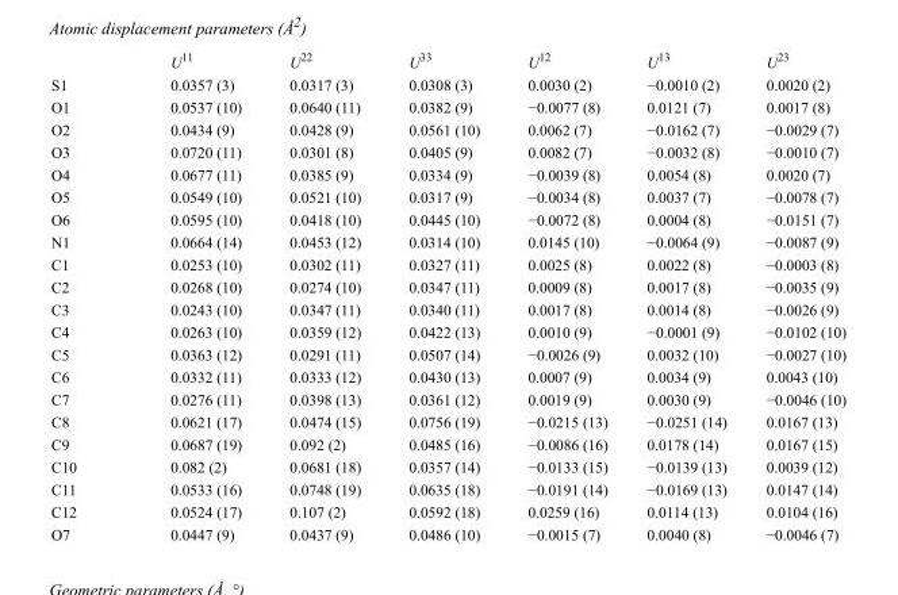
<table><thead><tr><td></td><td>U<sup>11</sup></td><td>U<sup>22</sup></td><td>U<sup>33</sup></td><td>U<sup>12</sup></td><td>U<sup>13</sup></td><td>U<sup>23</sup></td></tr></thead><tbody><tr><td>S1</td><td>0.0357 (3)</td><td>0.0317 (3)</td><td>0.0308 (3)</td><td>0.0030 (2)</td><td>−0.0010 (2)</td><td>0.0020 (2)</td></tr><tr><td>O1</td><td>0.0537 (10)</td><td>0.0640 (11)</td><td>0.0382 (9)</td><td>−0.0077 (8)</td><td>0.0121 (7)</td><td>0.0017 (8)</td></tr><tr><td>O2</td><td>0.0434 (9)</td><td>0.0428 (9)</td><td>0.0561 (10)</td><td>0.0062 (7)</td><td>−0.0162 (7)</td><td>−0.0029 (7)</td></tr><tr><td>O3</td><td>0.0720 (11)</td><td>0.0301 (8)</td><td>0.0405 (9)</td><td>0.0082 (7)</td><td>−0.0032 (8)</td><td>−0.0010 (7)</td></tr><tr><td>O4</td><td>0.0677 (11)</td><td>0.0385 (9)</td><td>0.0334 (9)</td><td>−0.0039 (8)</td><td>0.0054 (8)</td><td>0.0020 (7)</td></tr><tr><td>O5</td><td>0.0549 (10)</td><td>0.0521 (10)</td><td>0.0317 (9)</td><td>−0.0034 (8)</td><td>0.0037 (7)</td><td>−0.0078 (7)</td></tr><tr><td>O6</td><td>0.0595 (10)</td><td>0.0418 (10)</td><td>0.0445 (10)</td><td>−0.0072 (8)</td><td>0.0004 (8)</td><td>−0.0151 (7)</td></tr><tr><td>N1</td><td>0.0664 (14)</td><td>0.0453 (12)</td><td>0.0314 (10)</td><td>0.0145 (10)</td><td>−0.0064 (9)</td><td>−0.0087 (9)</td></tr><tr><td>C1</td><td>0.0253 (10)</td><td>0.0302 (11)</td><td>0.0327 (11)</td><td>0.0025 (8)</td><td>0.0022 (8)</td><td>−0.0003 (8)</td></tr><tr><td>C2</td><td>0.0268 (10)</td><td>0.0274 (10)</td><td>0.0347 (11)</td><td>0.0009 (8)</td><td>0.0017 (8)</td><td>−0.0035 (9)</td></tr><tr><td>C3</td><td>0.0243 (10)</td><td>0.0347 (11)</td><td>0.0340 (11)</td><td>0.0017 (8)</td><td>0.0014 (8)</td><td>−0.0026 (9)</td></tr><tr><td>C4</td><td>0.0263 (10)</td><td>0.0359 (12)</td><td>0.0422 (13)</td><td>0.0010 (9)</td><td>−0.0001 (9)</td><td>−0.0102 (10)</td></tr><tr><td>C5</td><td>0.0363 (12)</td><td>0.0291 (11)</td><td>0.0507 (14)</td><td>−0.0026 (9)</td><td>0.0032 (10)</td><td>−0.0027 (10)</td></tr><tr><td>C6</td><td>0.0332 (11)</td><td>0.0333 (12)</td><td>0.0430 (13)</td><td>0.0007 (9)</td><td>0.0034 (9)</td><td>0.0043 (10)</td></tr><tr><td>C7</td><td>0.0276 (11)</td><td>0.0398 (13)</td><td>0.0361 (12)</td><td>0.0019 (9)</td><td>0.0030 (9)</td><td>−0.0046 (10)</td></tr><tr><td>C8</td><td>0.0621 (17)</td><td>0.0474 (15)</td><td>0.0756 (19)</td><td>−0.0215 (13)</td><td>−0.0251 (14)</td><td>0.0167 (13)</td></tr><tr><td>C9</td><td>0.0687 (19)</td><td>0.092 (2)</td><td>0.0485 (16)</td><td>−0.0086 (16)</td><td>0.0178 (14)</td><td>0.0167 (15)</td></tr><tr><td>C10</td><td>0.082 (2)</td><td>0.0681 (18)</td><td>0.0357 (14)</td><td>−0.0133 (15)</td><td>−0.0139 (13)</td><td>0.0039 (12)</td></tr><tr><td>C11</td><td>0.0533 (16)</td><td>0.0748 (19)</td><td>0.0635 (18)</td><td>−0.0191 (14)</td><td>−0.0169 (13)</td><td>0.0147 (14)</td></tr><tr><td>C12</td><td>0.0524 (17)</td><td>0.107 (2)</td><td>0.0592 (18)</td><td>0.0259 (16)</td><td>0.0114 (13)</td><td>0.0104 (16)</td></tr><tr><td>O7</td><td>0.0447 (9)</td><td>0.0437 (9)</td><td>0.0486 (10)</td><td>−0.0015 (7)</td><td>0.0040 (8)</td><td>−0.0046 (7)</td></tr></tbody></table>